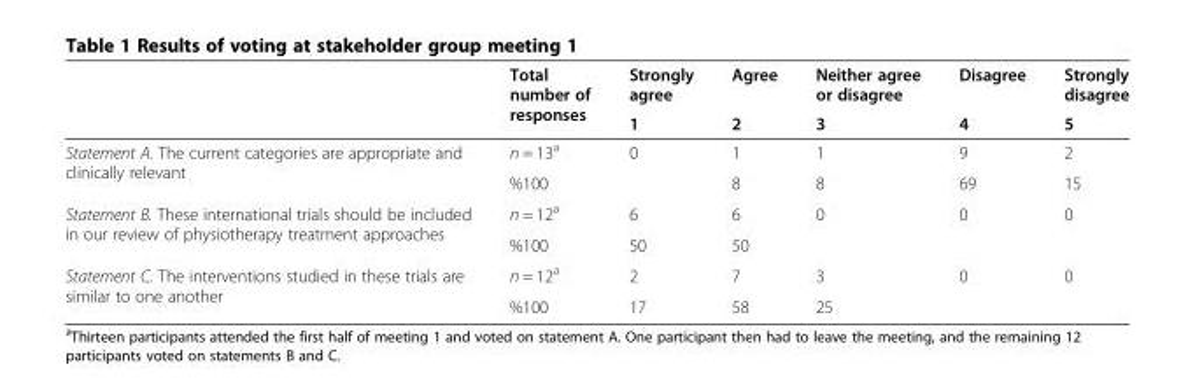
<table><thead><tr><td rowspan="2"></td><td rowspan="2">Total number of responses</td><td rowspan="2">Strongly agree 1</td><td rowspan="2">Agree 2</td><td rowspan="2">Neither agree or disagree 3</td><td rowspan="2">Disagree 4</td><td rowspan="2">Strongly disagree 5</td></tr><tr></tr></thead><tbody><tr><td rowspan="2">Statement A. The current categories are appropriate and clinically relevant</td><td>n = 13<sup>a</sup></td><td>0</td><td>1</td><td>1</td><td>9</td><td>2</td></tr><tr><td>%100</td><td></td><td>8</td><td>8</td><td>69</td><td>15</td></tr><tr><td rowspan="2">Statement B. These international trials should be included in our review of physiotherapy treatment approaches</td><td>n = 12<sup>a</sup></td><td>6</td><td>6</td><td>0</td><td>0</td><td>0</td></tr><tr><td>%100</td><td>50</td><td>50</td><td></td><td></td><td></td></tr><tr><td rowspan="2">Statement C. The interventions studied in these trials are similar to one another</td><td>n = 12<sup>a</sup></td><td>2</td><td>7</td><td>3</td><td>0</td><td>0</td></tr><tr><td>%100</td><td>17</td><td>58</td><td>25</td><td></td><td></td></tr></tbody></table>